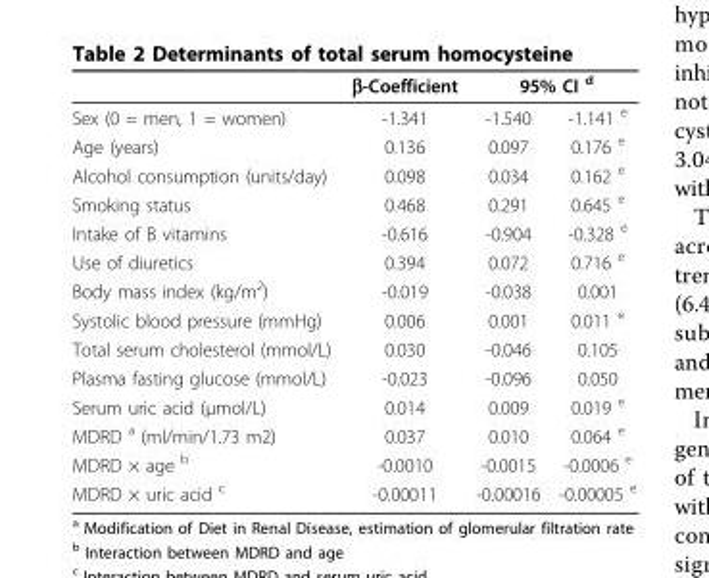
<table><thead><tr><td rowspan="2">Sex (0 = men, 1 = women)</td><td rowspan="2">β-Coefficient -1.341</td><td colspan="2">95% CI <sup>d</sup></td></tr><tr><td>-1.540</td><td>-1.141 <sup>e</sup></td></tr></thead><tbody><tr><td>Age (years)</td><td>0.136</td><td>0.097</td><td>0.176 <sup>e</sup></td></tr><tr><td>Alcohol consumption (units/day)</td><td>0.098</td><td>0.034</td><td>0.162 <sup>e</sup></td></tr><tr><td>Smoking status</td><td>0.468</td><td>0.291</td><td>0.645 <sup>e</sup></td></tr><tr><td>Intake of B vitamins</td><td>-0.616</td><td>-0.904</td><td>-0.328 <sup>e</sup></td></tr><tr><td>Use of diuretics</td><td>0.394</td><td>0.072</td><td>0.716 <sup>e</sup></td></tr><tr><td>Body mass index (kg/m<sup>2</sup>)</td><td>-0.019</td><td>-0.038</td><td>0.001</td></tr><tr><td>Systolic blood pressure (mmHg)</td><td>0.006</td><td>0.001</td><td>0.011 <sup>e</sup></td></tr><tr><td>Total serum cholesterol (mmol/L)</td><td>0.030</td><td>-0.046</td><td>0.105</td></tr><tr><td>Plasma fasting glucose (mmol/L)</td><td>-0.023</td><td>-0.096</td><td>0.050</td></tr><tr><td>Serum uric acid (μmol/L)</td><td>0.014</td><td>0.009</td><td>0.019 <sup>e</sup></td></tr><tr><td>MDRD <sup>a</sup> (ml/min/1.73 m2)</td><td>0.037</td><td>0.010</td><td>0.064 <sup>e</sup></td></tr><tr><td>MDRD × age <sup>b</sup></td><td>-0.0010</td><td>-0.0015</td><td>-0.0006 <sup>e</sup></td></tr><tr><td>MDRD × uric acid <sup>c</sup></td><td>-0.00011</td><td>-0.00016</td><td>-0.00005 <sup>e</sup></td></tr></tbody></table>